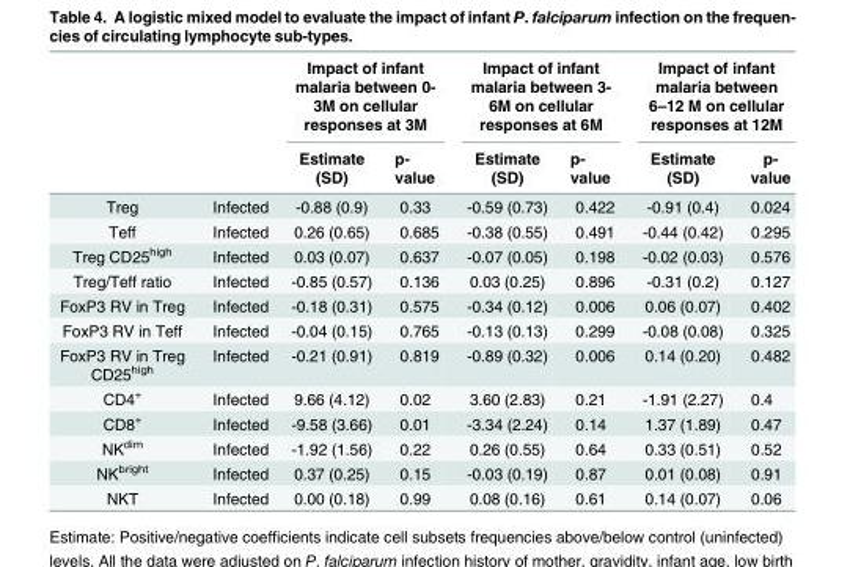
<table><thead><tr><td rowspan="2"></td><td rowspan="2"></td><td colspan="2">Impact of infant malaria between 0- 3M on cellular responses at 3M</td><td colspan="2">Impact of infant malaria between 3- 6M on cellular responses at 6M</td><td colspan="2">Impact of infant malaria between 6–12 M on cellular responses at 12M</td></tr><tr><td>Estimate (SD)</td><td>p- value</td><td>Estimate (SD)</td><td>p- value</td><td>Estimate (SD)</td><td>p- value</td></tr></thead><tbody><tr><td>Treg</td><td>Infected</td><td>-0.88 (0.9)</td><td>0.33</td><td>-0.59 (0.73)</td><td>0.422</td><td>-0.91 (0.4)</td><td>0.024</td></tr><tr><td>Teff</td><td>Infected</td><td>0.26 (0.65)</td><td>0.685</td><td>-0.38 (0.55)</td><td>0.491</td><td>-0.44 (0.42)</td><td>0.295</td></tr><tr><td>Treg CD25<sup>high</sup></td><td>Infected</td><td>0.03 (0.07)</td><td>0.637</td><td>-0.07 (0.05)</td><td>0.198</td><td>-0.02 (0.03)</td><td>0.576</td></tr><tr><td>Treg/Teff ratio</td><td>Infected</td><td>-0.85 (0.57)</td><td>0.136</td><td>0.03 (0.25)</td><td>0.896</td><td>-0.31 (0.2)</td><td>0.127</td></tr><tr><td>FoxP3 RV in Treg</td><td>Infected</td><td>-0.18 (0.31)</td><td>0.575</td><td>-0.34 (0.12)</td><td>0.006</td><td>0.06 (0.07)</td><td>0.402</td></tr><tr><td>FoxP3 RV in Teff</td><td>Infected</td><td>-0.04 (0.15)</td><td>0.765</td><td>-0.13 (0.13)</td><td>0.299</td><td>-0.08 (0.08)</td><td>0.325</td></tr><tr><td>FoxP3 RV in Treg CD25<sup>high</sup></td><td>Infected</td><td>-0.21 (0.91)</td><td>0.819</td><td>-0.89 (0.32)</td><td>0.006</td><td>0.14 (0.20)</td><td>0.482</td></tr><tr><td>CD4<sup>+</sup></td><td>Infected</td><td>9.66 (4.12)</td><td>0.02</td><td>3.60 (2.83)</td><td>0.21</td><td>-1.91 (2.27)</td><td>0.4</td></tr><tr><td>CD8<sup>+</sup></td><td>Infected</td><td>-9.58 (3.66)</td><td>0.01</td><td>-3.34 (2.24)</td><td>0.14</td><td>1.37 (1.89)</td><td>0.47</td></tr><tr><td>NK<sup>dim</sup></td><td>Infected</td><td>-1.92 (1.56)</td><td>0.22</td><td>0.26 (0.55)</td><td>0.64</td><td>0.33 (0.51)</td><td>0.52</td></tr><tr><td>NK<sup>bright</sup></td><td>Infected</td><td>0.37 (0.25)</td><td>0.15</td><td>-0.03 (0.19)</td><td>0.87</td><td>0.01 (0.08)</td><td>0.91</td></tr><tr><td>NKT</td><td>Infected</td><td>0.00 (0.18)</td><td>0.99</td><td>0.08 (0.16)</td><td>0.61</td><td>0.14 (0.07)</td><td>0.06</td></tr></tbody></table>